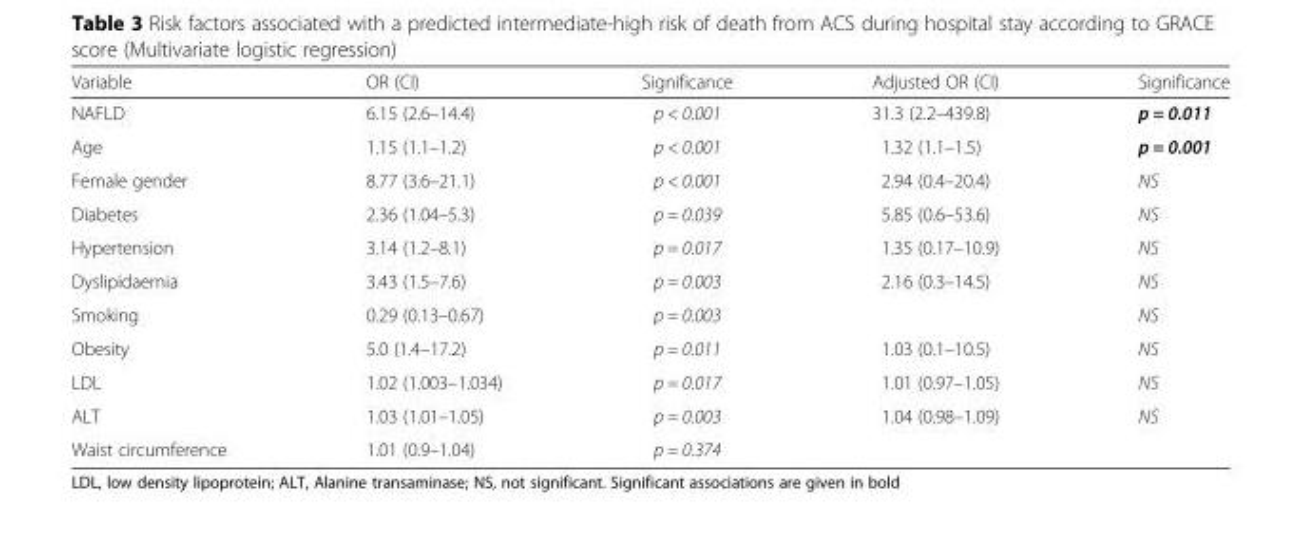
<table><thead><tr><td>Variable</td><td>OR (CI)</td><td>Significance</td><td>Adjusted OR (CI)</td><td>Significance</td></tr></thead><tbody><tr><td>NAFLD</td><td>6.15 (2.6–14.4)</td><td>p &lt; 0.001</td><td>31.3 (2.2–439.8)</td><td>p = 0.011</td></tr><tr><td>Age</td><td>1.15 (1.1–1.2)</td><td>p &lt; 0.001</td><td>1.32 (1.1–1.5)</td><td>p = 0.001</td></tr><tr><td>Female gender</td><td>8.77 (3.6–21.1)</td><td>p &lt; 0.001</td><td>2.94 (0.4–20.4)</td><td>NS</td></tr><tr><td>Diabetes</td><td>2.36 (1.04–5.3)</td><td>p = 0.039</td><td>5.85 (0.6–53.6)</td><td>NS</td></tr><tr><td>Hypertension</td><td>3.14 (1.2–8.1)</td><td>p = 0.017</td><td>1.35 (0.17–10.9)</td><td>NS</td></tr><tr><td>Dyslipidaemia</td><td>3.43 (1.5–7.6)</td><td>p = 0.003</td><td>2.16 (0.3–14.5)</td><td>NS</td></tr><tr><td>Smoking</td><td>0.29 (0.13–0.67)</td><td>p = 0.003</td><td></td><td>NS</td></tr><tr><td>Obesity</td><td>5.0 (1.4–17.2)</td><td>p = 0.011</td><td>1.03 (0.1–10.5)</td><td>NS</td></tr><tr><td>LDL</td><td>1.02 (1.003–1.034)</td><td>p = 0.017</td><td>1.01 (0.97–1.05)</td><td>NS</td></tr><tr><td>ALT</td><td>1.03 (1.01–1.05)</td><td>p = 0.003</td><td>1.04 (0.98–1.09)</td><td>NS</td></tr><tr><td>Waist circumference</td><td>1.01 (0.9–1.04)</td><td>p = 0.374</td><td></td><td></td></tr></tbody></table>